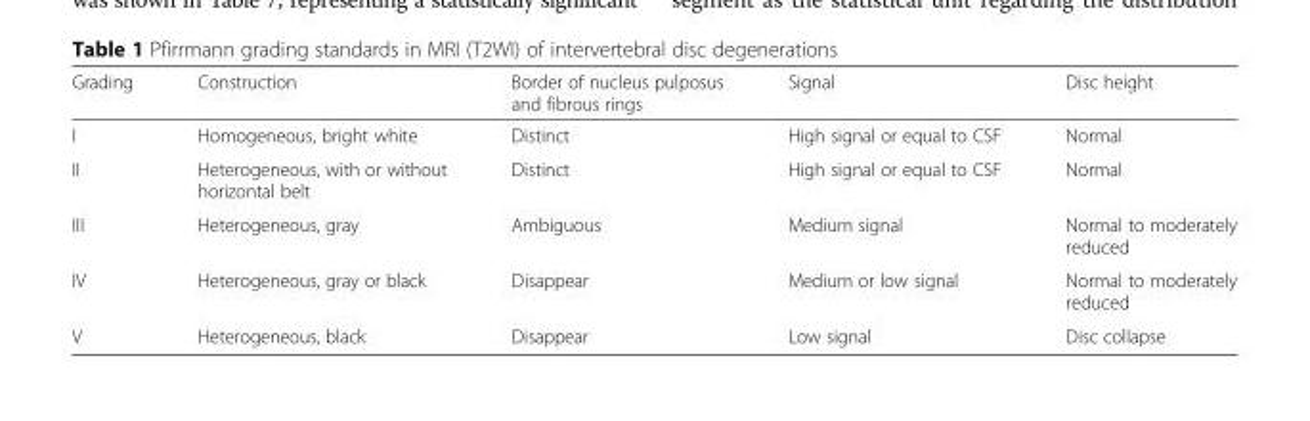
<table><thead><tr><td>Grading</td><td>Construction</td><td>Border of nucleus pulposus and fibrous rings</td><td>Signal</td><td>Disc height</td></tr></thead><tbody><tr><td>I</td><td>Homogeneous, bright white</td><td>Distinct</td><td>High signal or equal to CSF</td><td>Normal</td></tr><tr><td>II</td><td>Heterogeneous, with or without horizontal belt</td><td>Distinct</td><td>High signal or equal to CSF</td><td>Normal</td></tr><tr><td>III</td><td>Heterogeneous, gray</td><td>Ambiguous</td><td>Medium signal</td><td>Normal to moderately reduced</td></tr><tr><td>IV</td><td>Heterogeneous, gray or black</td><td>Disappear</td><td>Medium or low signal</td><td>Normal to moderately reduced</td></tr><tr><td>V</td><td>Heterogeneous, black</td><td>Disappear</td><td>Low signal</td><td>Disc collapse</td></tr></tbody></table>